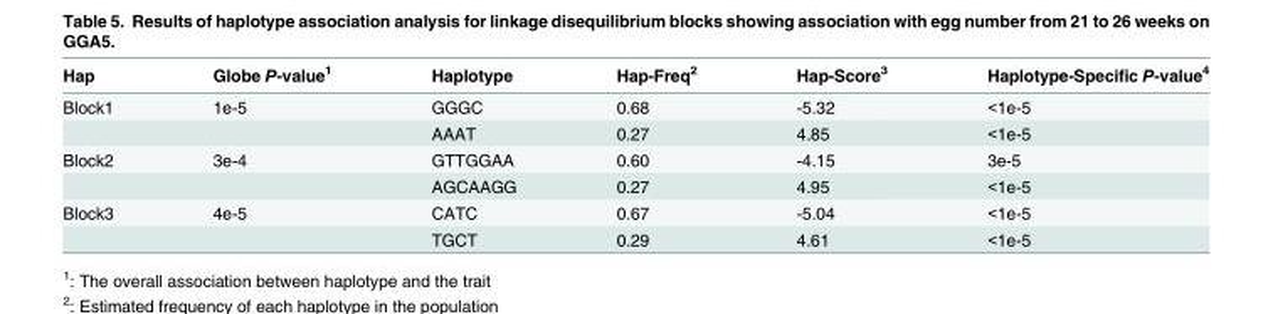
<table><thead><tr><td>Hap</td><td>Globe P-value<sup>1</sup></td><td>Haplotype</td><td>Hap-Freq<sup>2</sup></td><td>Hap-Score<sup>3</sup></td><td>Haplotype-Specific P-value<sup>4</sup></td></tr></thead><tbody><tr><td rowspan="2">Block1</td><td>1e-5</td><td>GGGC</td><td>0.68</td><td>-5.32</td><td>&lt;1e-5</td></tr><tr><td></td><td>AAAT</td><td>0.27</td><td>4.85</td><td>&lt;1e-5</td></tr><tr><td rowspan="2">Block2</td><td>3e-4</td><td>GTTGGAA</td><td>0.60</td><td>-4.15</td><td>3e-5</td></tr><tr><td></td><td>AGCAAGG</td><td>0.27</td><td>4.95</td><td>&lt;1e-5</td></tr><tr><td rowspan="2">Block3</td><td>4e-5</td><td>CATC</td><td>0.67</td><td>-5.04</td><td>&lt;1e-5</td></tr><tr><td></td><td>TGCT</td><td>0.29</td><td>4.61</td><td>&lt;1e-5</td></tr></tbody></table>